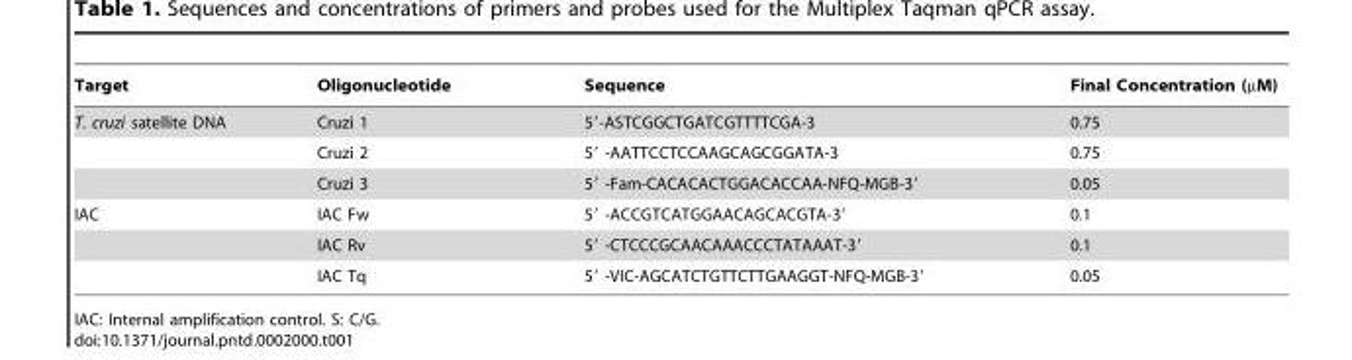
<table><thead><tr><td>Target</td><td>Oligonucleotide</td><td>Sequence</td><td>Final Concentration (µM)</td></tr></thead><tbody><tr><td rowspan="3">T. cruzi satellite DNA</td><td>Cruzi 1</td><td>5′-ASTCGGCTGATCGTTTTCGA-3</td><td>0.75</td></tr><tr><td>Cruzi 2</td><td>5′ -AATTCCTCCAAGCAGCGGATA-3</td><td>0.75</td></tr><tr><td>Cruzi 3</td><td>5′ -Fam-CACACACTGGACACCAA-NFQ-MGB-3′</td><td>0.05</td></tr><tr><td rowspan="3">IAC</td><td>IAC Fw</td><td>5′ -ACCGTCATGGAACAGCACGTA-3′</td><td>0.1</td></tr><tr><td>IAC Rv</td><td>5′ -CTCCCGCAACAAACCCTATAAAT-3′</td><td>0.1</td></tr><tr><td>IAC Tq</td><td>5′ -VIC-AGCATCTGTTCTTGAAGGT-NFQ-MGB-3′</td><td>0.05</td></tr></tbody></table>